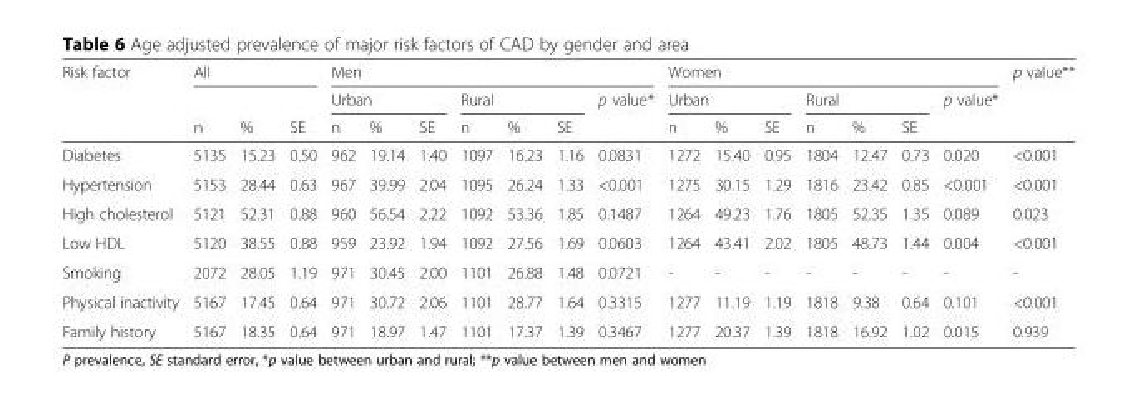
<table><thead><tr><td rowspan="3">Risk factor</td><td colspan="3">All</td><td colspan="7">Men</td><td colspan="7">Women</td><td rowspan="3">p value**</td></tr><tr><td rowspan="2">n</td><td rowspan="2">%</td><td rowspan="2">SE</td><td colspan="3">Urban</td><td colspan="3">Rural</td><td rowspan="2">p value*</td><td colspan="3">Urban</td><td colspan="3">Rural</td><td rowspan="2">p value*</td></tr><tr><td>n</td><td>%</td><td>SE</td><td>n</td><td>%</td><td>SE</td><td>n</td><td>%</td><td>SE</td><td>n</td><td>%</td><td>SE</td></tr></thead><tbody><tr><td>Diabetes</td><td>5135</td><td>15.23</td><td>0.50</td><td>962</td><td>19.14</td><td>1.40</td><td>1097</td><td>16.23</td><td>1.16</td><td>0.0831</td><td>1272</td><td>15.40</td><td>0.95</td><td>1804</td><td>12.47</td><td>0.73</td><td>0.020</td><td>&lt;0.001</td></tr><tr><td>Hypertension</td><td>5153</td><td>28.44</td><td>0.63</td><td>967</td><td>39.99</td><td>2.04</td><td>1095</td><td>26.24</td><td>1.33</td><td>&lt;0.001</td><td>1275</td><td>30.15</td><td>1.29</td><td>1816</td><td>23.42</td><td>0.85</td><td>&lt;0.001</td><td>&lt;0.001</td></tr><tr><td>High cholesterol</td><td>5121</td><td>52.31</td><td>0.88</td><td>960</td><td>56.54</td><td>2.22</td><td>1092</td><td>53.36</td><td>1.85</td><td>0.1487</td><td>1264</td><td>49.23</td><td>1.76</td><td>1805</td><td>52.35</td><td>1.35</td><td>0.089</td><td>0.023</td></tr><tr><td>Low HDL</td><td>5120</td><td>38.55</td><td>0.88</td><td>959</td><td>23.92</td><td>1.94</td><td>1092</td><td>27.56</td><td>1.69</td><td>0.0603</td><td>1264</td><td>43.41</td><td>2.02</td><td>1805</td><td>48.73</td><td>1.44</td><td>0.004</td><td>&lt;0.001</td></tr><tr><td>Smoking</td><td>2072</td><td>28.05</td><td>1.19</td><td>971</td><td>30.45</td><td>2.00</td><td>1101</td><td>26.88</td><td>1.48</td><td>0.0721</td><td>-</td><td>-</td><td>-</td><td>-</td><td>-</td><td>-</td><td>-</td><td>-</td></tr><tr><td>Physical inactivity</td><td>5167</td><td>17.45</td><td>0.64</td><td>971</td><td>30.72</td><td>2.06</td><td>1101</td><td>28.77</td><td>1.64</td><td>0.3315</td><td>1277</td><td>11.19</td><td>1.19</td><td>1818</td><td>9.38</td><td>0.64</td><td>0.101</td><td>&lt;0.001</td></tr><tr><td>Family history</td><td>5167</td><td>18.35</td><td>0.64</td><td>971</td><td>18.97</td><td>1.47</td><td>1101</td><td>17.37</td><td>1.39</td><td>0.3467</td><td>1277</td><td>20.37</td><td>1.39</td><td>1818</td><td>16.92</td><td>1.02</td><td>0.015</td><td>0.939</td></tr></tbody></table>